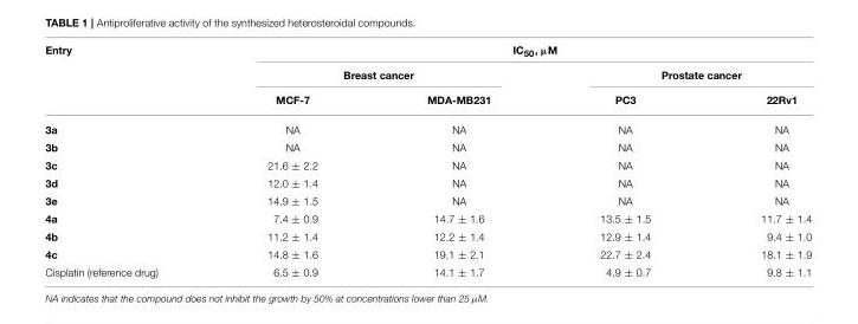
<table><thead><tr><td rowspan="3">Entry</td><td colspan="4">IC<sub>50</sub>, µM</td></tr><tr><td colspan="2">Breast cancer</td><td colspan="2">Prostate cancer</td></tr><tr><td>MCF-7</td><td>MDA-MB231</td><td>PC3</td><td>22Rv1</td></tr></thead><tbody><tr><td>3a</td><td>NA</td><td>NA</td><td>NA</td><td>NA</td></tr><tr><td>3b</td><td>NA</td><td>NA</td><td>NA</td><td>NA</td></tr><tr><td>3c</td><td>21.6 ± 2.2</td><td>NA</td><td>NA</td><td>NA</td></tr><tr><td>3d</td><td>12.0 ± 1.4</td><td>NA</td><td>NA</td><td>NA</td></tr><tr><td>3e</td><td>14.9 ± 1.5</td><td>NA</td><td>NA</td><td>NA</td></tr><tr><td>4a</td><td>7.4 ± 0.9</td><td>14.7 ± 1.6</td><td>13.5 ± 1.5</td><td>11.7 ± 1.4</td></tr><tr><td>4b</td><td>11.2 ± 1.4</td><td>12.2 ± 1.4</td><td>12.9 ± 1.4</td><td>9.4 ± 1.0</td></tr><tr><td>4c</td><td>14.8 ± 1.6</td><td>19.1 ± 2.1</td><td>22.7 ± 2.4</td><td>18.1 ± 1.9</td></tr><tr><td>Cisplatin (reference drug)</td><td>6.5 ± 0.9</td><td>14.1 ± 1.7</td><td>4.9 ± 0.7</td><td>9.8 ± 1.1</td></tr></tbody></table>